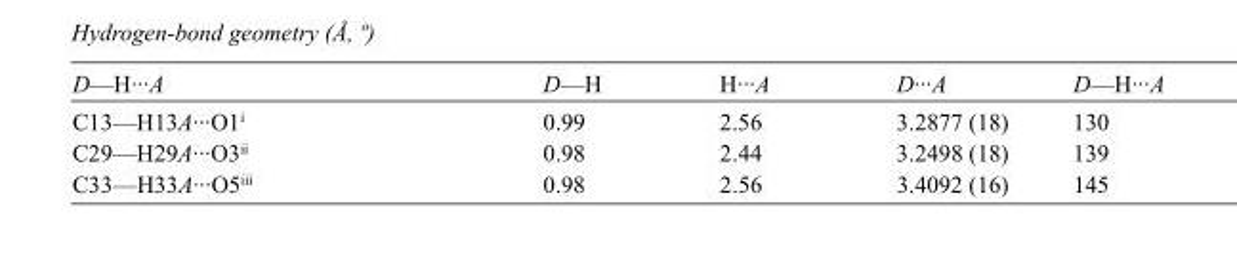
<table><tbody><tr><td>D—H···A</td><td>D—H</td><td>H···A</td><td>D···A</td><td>D—H···A</td></tr><tr><td>C13—H13A···O1<sup>i</sup></td><td>0.99</td><td>2.56</td><td>3.2877 (18)</td><td>130</td></tr><tr><td>C29—H29A···O3<sup>ii</sup></td><td>0.98</td><td>2.44</td><td>3.2498 (18)</td><td>139</td></tr><tr><td>C33—H33A···O5<sup>iii</sup></td><td>0.98</td><td>2.56</td><td>3.4092 (16)</td><td>145</td></tr></tbody></table>